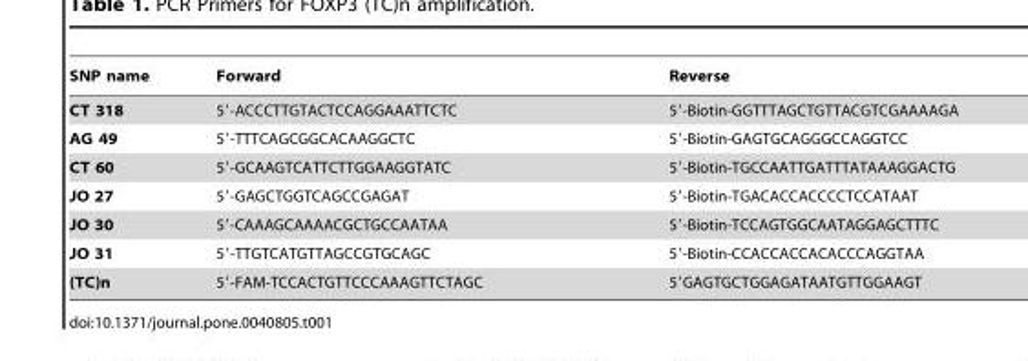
<table><thead><tr><td>SNP name</td><td>Forward</td><td>Reverse</td></tr></thead><tbody><tr><td>CT 318</td><td>5′-ACCCTTGTACTCCAGGAAATTCTC</td><td>5′-Biotin-GGTTTAGCTGTTACGTCGAAAAGA</td></tr><tr><td>AG 49</td><td>5′-TTTCAGCGGCACAAGGCTC</td><td>5′-Biotin-GAGTGCAGGGCCAGGTCC</td></tr><tr><td>CT 60</td><td>5′-GCAAGTCATTCTTGGAAGGTATC</td><td>5′-Biotin-TGCCAATTGATTTATAAAGGACTG</td></tr><tr><td>JO 27</td><td>5′-GAGCTGGTCAGCCGAGAT</td><td>5′-Biotin-TGACACCACCCCTCCATAAT</td></tr><tr><td>JO 30</td><td>5′-CAAAGCAAAACGCTGCCAATAA</td><td>5′-Biotin-TCCAGTGGCAATAGGAGCTTTC</td></tr><tr><td>JO 31</td><td>5′-TTGTCATGTTAGCCGTGCAGC</td><td>5′-Biotin-CCACCACCACACCCAGGTAA</td></tr><tr><td>(TC)n</td><td>5′-FAM-TCCACTGTTCCCAAAGTTCTAGC</td><td>5′GAGTGCTGGAGATAATGTTGGAAGT</td></tr></tbody></table>